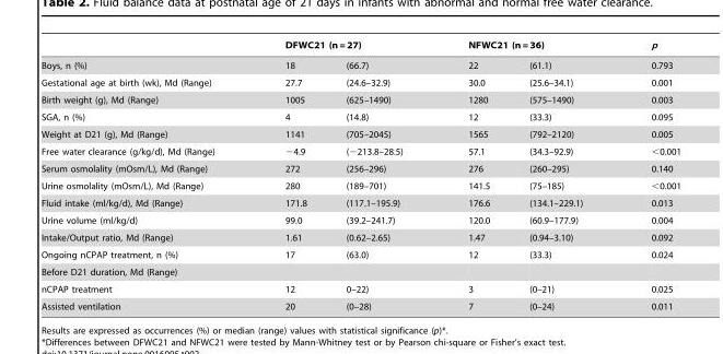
<table><thead><tr><td rowspan="2">Boys, n (%)</td><td colspan="2">DFWC21 (n = 27)</td><td colspan="2">NFWC21 (n = 36)</td><td rowspan="2">p 0.793</td></tr><tr><td>18</td><td>(66.7)</td><td>22</td><td>(61.1)</td></tr></thead><tbody><tr><td>Gestational age at birth (wk), Md (Range)</td><td>27.7</td><td>(24.6–32.9)</td><td>30.0</td><td>(25.6–34.1)</td><td>0.001</td></tr><tr><td>Birth weight (g), Md (Range)</td><td>1005</td><td>(625–1490)</td><td>1280</td><td>(575–1490)</td><td>0.003</td></tr><tr><td>SGA, n (%)</td><td>4</td><td>(14.8)</td><td>12</td><td>(33.3)</td><td>0.095</td></tr><tr><td>Weight at D21 (g), Md (Range)</td><td>1141</td><td>(705–2045)</td><td>1565</td><td>(792–2120)</td><td>0.005</td></tr><tr><td>Free water clearance (g/kg/d), Md (Range)</td><td>−4.9</td><td>(−213.8–28.5)</td><td>57.1</td><td>(34.3–92.9)</td><td>&lt;0.001</td></tr><tr><td>Serum osmolality (mOsm/L), Md (Range)</td><td>272</td><td>(256–296)</td><td>276</td><td>(260–295)</td><td>0.140</td></tr><tr><td>Urine osmolality (mOsm/L), Md (Range)</td><td>280</td><td>(189–701)</td><td>141.5</td><td>(75–185)</td><td>&lt;0.001</td></tr><tr><td>Fluid intake (ml/kg/d), Md (Range)</td><td>171.8</td><td>(117.1–195.9)</td><td>176.6</td><td>(134.1–229.1)</td><td>0.013</td></tr><tr><td>Urine volume (ml/kg/d)</td><td>99.0</td><td>(39.2–241.7)</td><td>120.0</td><td>(60.9–177.9)</td><td>0.004</td></tr><tr><td>Intake/Output ratio, Md (Range)</td><td>1.61</td><td>(0.62–2.65)</td><td>1.47</td><td>(0.94–3.10)</td><td>0.092</td></tr><tr><td>Ongoing nCPAP treatment, n (%)</td><td>17</td><td>(63.0)</td><td>12</td><td>(33.3)</td><td>0.024</td></tr><tr><td colspan="6">Before D21 duration, Md (Range)</td></tr><tr><td>nCPAP treatment</td><td>12</td><td>0–22)</td><td>3</td><td>(0–21)</td><td>0.025</td></tr><tr><td>Assisted ventilation</td><td>20</td><td>(0–28)</td><td>7</td><td>(0–24)</td><td>0.011</td></tr></tbody></table>